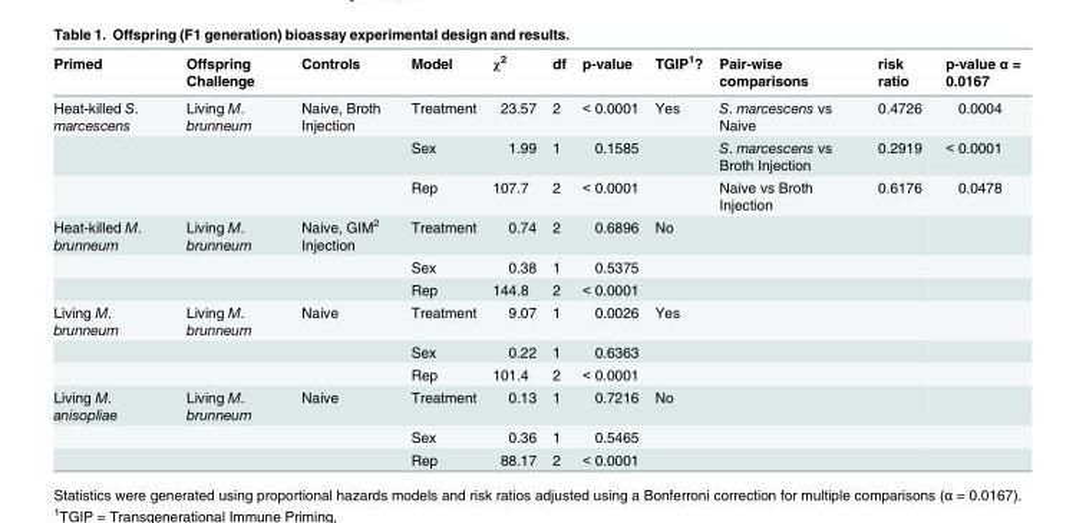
<table><thead><tr><td>Primed</td><td>Offspring Challenge</td><td>Controls</td><td>Model</td><td>χ<sup>2</sup></td><td>df</td><td>p-value</td><td>TGIP<sup>1</sup>?</td><td>Pair-wise comparisons</td><td>risk ratio</td><td>p-value α = 0.0167</td></tr></thead><tbody><tr><td rowspan="3">Heat-killed S. marcescens</td><td>Living M. brunneum</td><td>Naive, Broth Injection</td><td>Treatment</td><td>23.57</td><td>2</td><td>&lt; 0.0001</td><td>Yes</td><td>S. marcescens vs Naive</td><td>0.4726</td><td>0.0004</td></tr><tr><td></td><td></td><td>Sex</td><td>1.99</td><td>1</td><td>0.1585</td><td></td><td>S. marcescens vs Broth Injection</td><td>0.2919</td><td>&lt; 0.0001</td></tr><tr><td></td><td></td><td>Rep</td><td>107.7</td><td>2</td><td>&lt; 0.0001</td><td></td><td>Naive vs Broth Injection</td><td>0.6176</td><td>0.0478</td></tr><tr><td rowspan="3">Heat-killed M. brunneum</td><td>Living M. brunneum</td><td>Naive, GIM<sup>2</sup> Injection</td><td>Treatment</td><td>0.74</td><td>2</td><td>0.6896</td><td>No</td><td></td><td></td><td></td></tr><tr><td></td><td></td><td>Sex</td><td>0.38</td><td>1</td><td>0.5375</td><td></td><td></td><td></td><td></td></tr><tr><td></td><td></td><td>Rep</td><td>144.8</td><td>2</td><td>&lt; 0.0001</td><td></td><td></td><td></td><td></td></tr><tr><td rowspan="3">Living M. brunneum</td><td>Living M. brunneum</td><td>Naive</td><td>Treatment</td><td>9.07</td><td>1</td><td>0.0026</td><td>Yes</td><td></td><td></td><td></td></tr><tr><td></td><td></td><td>Sex</td><td>0.22</td><td>1</td><td>0.6363</td><td></td><td></td><td></td><td></td></tr><tr><td></td><td></td><td>Rep</td><td>101.4</td><td>2</td><td>&lt; 0.0001</td><td></td><td></td><td></td><td></td></tr><tr><td rowspan="3">Living M. anisopliae</td><td>Living M. brunneum</td><td>Naive</td><td>Treatment</td><td>0.13</td><td>1</td><td>0.7216</td><td>No</td><td></td><td></td><td></td></tr><tr><td></td><td></td><td>Sex</td><td>0.36</td><td>1</td><td>0.5465</td><td></td><td></td><td></td><td></td></tr><tr><td></td><td></td><td>Rep</td><td>88.17</td><td>2</td><td>&lt; 0.0001</td><td></td><td></td><td></td><td></td></tr></tbody></table>